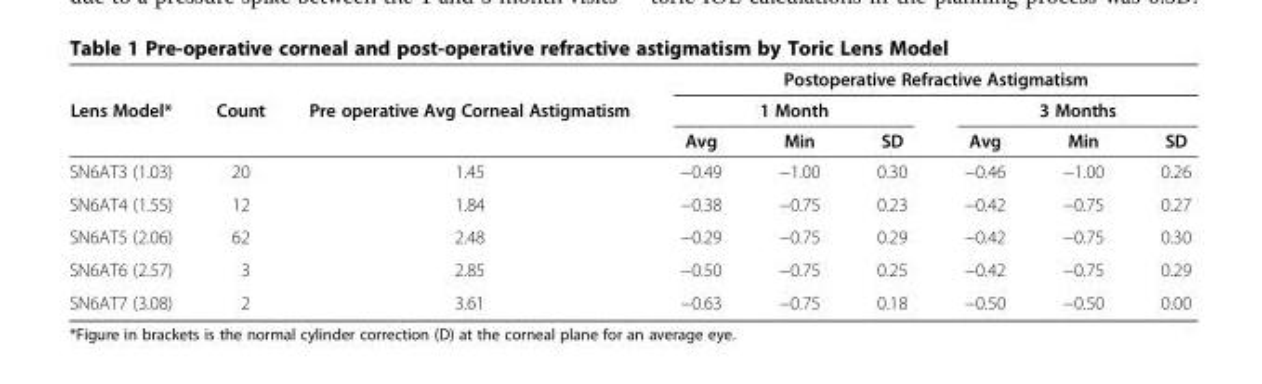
<table><thead><tr><td rowspan="3">Lens Model*</td><td rowspan="3">Count</td><td rowspan="3">Pre operative Avg Corneal Astigmatism</td><td colspan="6">Postoperative Refractive Astigmatism</td></tr><tr><td colspan="3">1 Month</td><td colspan="3">3 Months</td></tr><tr><td>Avg</td><td>Min</td><td>SD</td><td>Avg</td><td>Min</td><td>SD</td></tr></thead><tbody><tr><td>SN6AT3 (1.03)</td><td>20</td><td>1.45</td><td>−0.49</td><td>−1.00</td><td>0.30</td><td>−0.46</td><td>−1.00</td><td>0.26</td></tr><tr><td>SN6AT4 (1.55)</td><td>12</td><td>1.84</td><td>−0.38</td><td>−0.75</td><td>0.23</td><td>−0.42</td><td>−0.75</td><td>0.27</td></tr><tr><td>SN6AT5 (2.06)</td><td>62</td><td>2.48</td><td>−0.29</td><td>−0.75</td><td>0.29</td><td>−0.42</td><td>−0.75</td><td>0.30</td></tr><tr><td>SN6AT6 (2.57)</td><td>3</td><td>2.85</td><td>−0.50</td><td>−0.75</td><td>0.25</td><td>−0.42</td><td>−0.75</td><td>0.29</td></tr><tr><td>SN6AT7 (3.08)</td><td>2</td><td>3.61</td><td>−0.63</td><td>−0.75</td><td>0.18</td><td>−0.50</td><td>−0.50</td><td>0.00</td></tr></tbody></table>